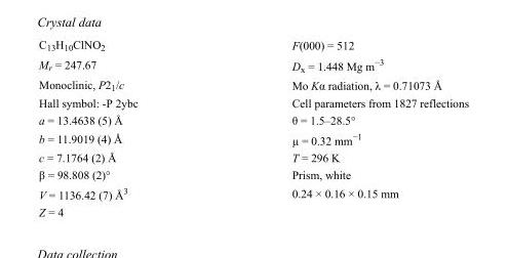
<table><tbody><tr><td>C<sub>13</sub>H<sub>10</sub>ClNO<sub>2</sub></td><td>F(000) = 512</td></tr><tr><td>M<sub>r</sub> = 247.67</td><td>D<sub>x</sub> = 1.448 Mg m<sup>−3</sup></td></tr><tr><td>Monoclinic, P2<sub>1</sub>/c</td><td>Mo Kα radiation, λ = 0.71073 Å</td></tr><tr><td>Hall symbol: -P 2ybc</td><td>Cell parameters from 1827 reflections</td></tr><tr><td>a = 13.4638 (5) Å</td><td>θ = 1.5–28.5°</td></tr><tr><td>b = 11.9019 (4) Å</td><td>µ = 0.32 mm<sup>−1</sup></td></tr><tr><td>c = 7.1764 (2) Å</td><td>T = 296 K</td></tr><tr><td>β = 98.808 (2)°</td><td>Prism, white</td></tr><tr><td>V = 1136.42 (7) Å<sup>3</sup></td><td>0.24 × 0.16 × 0.15 mm</td></tr><tr><td>Z = 4</td><td></td></tr></tbody></table>